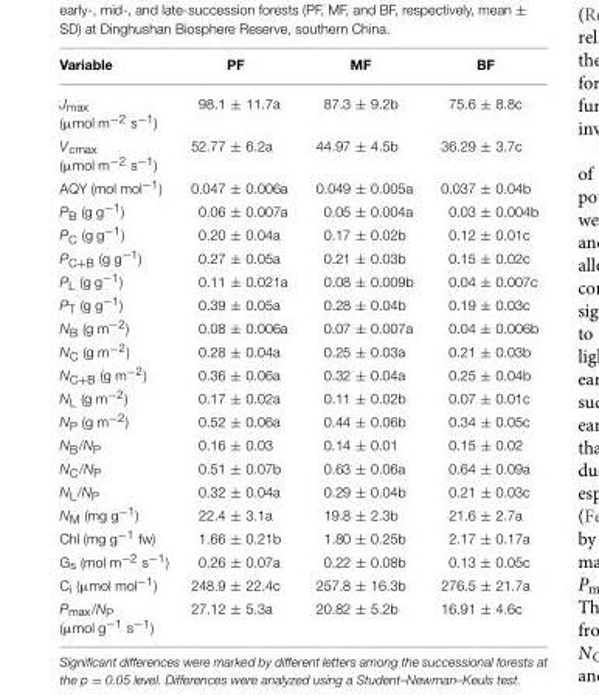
<table><thead><tr><td>Variable</td><td>PF</td><td>MF</td><td>BF</td></tr></thead><tbody><tr><td>J<sub>max</sub> (µmol m<sup>−2</sup> s<sup>−1</sup>)</td><td>98.1 ± 11.7a</td><td>87.3 ± 9.2b</td><td>75.6 ± 8.8c</td></tr><tr><td>V<sub>cmax</sub> (µmol m<sup>−2</sup> s<sup>−1</sup>)</td><td>52.77 ± 6.2a</td><td>44.97 ± 4.5b</td><td>36.29 ± 3.7c</td></tr><tr><td>AQY (mol mol<sup>−1</sup>)</td><td>0.047 ± 0.006a</td><td>0.049 ± 0.005a</td><td>0.037 ± 0.04b</td></tr><tr><td>P<sub>B</sub> (g g<sup>−1</sup>)</td><td>0.06 ± 0.007a</td><td>0.05 ± 0.004a</td><td>0.03 ± 0.004b</td></tr><tr><td>P<sub>C</sub> (g g<sup>−1</sup>)</td><td>0.20 ± 0.04a</td><td>0.17 ± 0.02b</td><td>0.12 ± 0.01c</td></tr><tr><td>P<sub>C+B</sub> (g g<sup>−1</sup>)</td><td>0.27 ± 0.05a</td><td>0.21 ± 0.03b</td><td>0.15 ± 0.02c</td></tr><tr><td>P<sub>L</sub> (g g<sup>−1</sup>)</td><td>0.11 ± 0.021a</td><td>0.08 ± 0.009b</td><td>0.04 ± 0.007c</td></tr><tr><td>P<sub>T</sub> (g g<sup>−1</sup>)</td><td>0.39 ± 0.05a</td><td>0.28 ± 0.04b</td><td>0.19 ± 0.03c</td></tr><tr><td>N<sub>B</sub> (g m<sup>−2</sup>)</td><td>0.08 ± 0.006a</td><td>0.07 ± 0.007a</td><td>0.04 ± 0.006b</td></tr><tr><td>N<sub>C</sub> (g m<sup>−2</sup>)</td><td>0.28 ± 0.04a</td><td>0.25 ± 0.03a</td><td>0.21 ± 0.03b</td></tr><tr><td>N<sub>C+B</sub> (g m<sup>−2</sup>)</td><td>0.36 ± 0.06a</td><td>0.32 ± 0.04a</td><td>0.25 ± 0.04b</td></tr><tr><td>N<sub>L</sub> (g m<sup>−2</sup>)</td><td>0.17 ± 0.02a</td><td>0.11 ± 0.02b</td><td>0.07 ± 0.01c</td></tr><tr><td>N<sub>P</sub> (g m<sup>−2</sup>)</td><td>0.52 ± 0.06a</td><td>0.44 ± 0.06b</td><td>0.34 ± 0.05c</td></tr><tr><td>N<sub>B</sub>/N<sub>P</sub></td><td>0.16 ± 0.03</td><td>0.14 ± 0.01</td><td>0.15 ± 0.02</td></tr><tr><td>N<sub>C</sub>/N<sub>P</sub></td><td>0.51 ± 0.07b</td><td>0.63 ± 0.06a</td><td>0.64 ± 0.09a</td></tr><tr><td>N<sub>L</sub>/N<sub>P</sub></td><td>0.32 ± 0.04a</td><td>0.29 ± 0.04b</td><td>0.21 ± 0.03c</td></tr><tr><td>N<sub>M</sub> (mg g<sup>−1</sup>)</td><td>22.4 ± 3.1a</td><td>19.8 ± 2.3b</td><td>21.6 ± 2.7a</td></tr><tr><td>Chl (mg g<sup>−1</sup> fw)</td><td>1.66 ± 0.21b</td><td>1.80 ± 0.25b</td><td>2.17 ± 0.17a</td></tr><tr><td>G<sub>s</sub> (mol m<sup>−2</sup> s<sup>−1</sup>)</td><td>0.26 ± 0.07a</td><td>0.22 ± 0.08b</td><td>0.13 ± 0.05c</td></tr><tr><td>C<sub>i</sub> (µmol mol<sup>−1</sup>)</td><td>248.9 ± 22.4c</td><td>257.8 ± 16.3b</td><td>276.5 ± 21.7a</td></tr><tr><td>P<sub>max</sub>/N<sub>P</sub> (µmol g<sup>−1</sup> s<sup>−1</sup>)</td><td>27.12 ± 5.3a</td><td>20.82 ± 5.2b</td><td>16.91 ± 4.6c</td></tr></tbody></table>